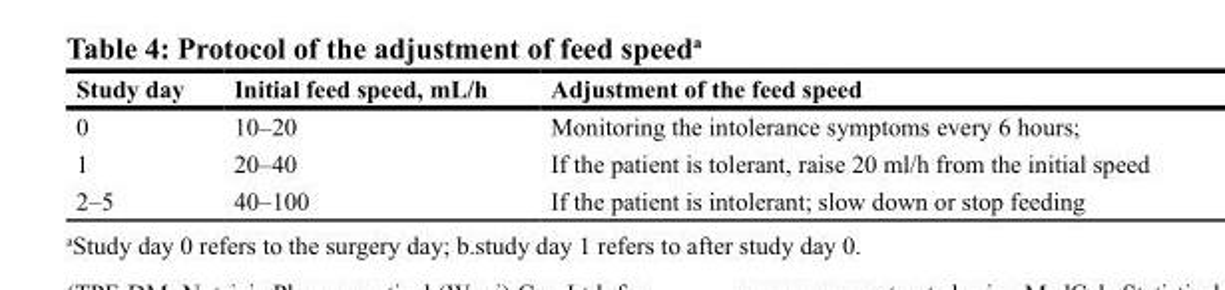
<table><thead><tr><td>Study day</td><td>Initial feed speed, mL/h</td><td>Adjustment of the feed speed</td></tr></thead><tbody><tr><td>0</td><td>10–20</td><td>Monitoring the intolerance symptoms every 6 hours;</td></tr><tr><td>1</td><td>20–40</td><td>If the patient is tolerant, raise 20 ml/h from the initial speed</td></tr><tr><td>2–5</td><td>40–100</td><td>If the patient is intolerant; slow down or stop feeding</td></tr></tbody></table>